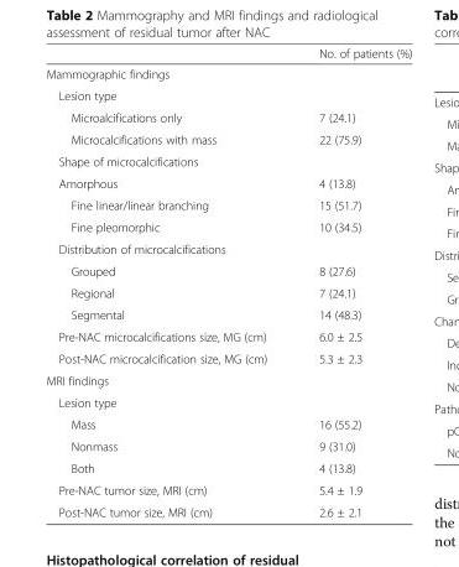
<table><thead><tr><td></td><td>No. of patients (%)</td></tr></thead><tbody><tr><td colspan="2">Mammographic findings</td></tr><tr><td colspan="2">Lesion type</td></tr><tr><td>Microalcifications only</td><td>7 (24.1)</td></tr><tr><td>Microcalcifications with mass</td><td>22 (75.9)</td></tr><tr><td colspan="2">Shape of microcalcifications</td></tr><tr><td>Amorphous</td><td>4 (13.8)</td></tr><tr><td>Fine linear/linear branching</td><td>15 (51.7)</td></tr><tr><td>Fine pleomorphic</td><td>10 (34.5)</td></tr><tr><td colspan="2">Distribution of microcalcifications</td></tr><tr><td>Grouped</td><td>8 (27.6)</td></tr><tr><td>Regional</td><td>7 (24.1)</td></tr><tr><td>Segmental</td><td>14 (48.3)</td></tr><tr><td>Pre-NAC microcalcifications size, MG (cm)</td><td>6.0 ± 2.5</td></tr><tr><td>Post-NAC microcalcification size, MG (cm)</td><td>5.3 ± 2.3</td></tr><tr><td colspan="2">MRI findings</td></tr><tr><td colspan="2">Lesion type</td></tr><tr><td>Mass</td><td>16 (55.2)</td></tr><tr><td>Nonmass</td><td>9 (31.0)</td></tr><tr><td>Both</td><td>4 (13.8)</td></tr><tr><td>Pre-NAC tumor size, MRI (cm)</td><td>5.4 ± 1.9</td></tr><tr><td>Post-NAC tumor size, MRI (cm)</td><td>2.6 ± 2.1</td></tr></tbody></table>